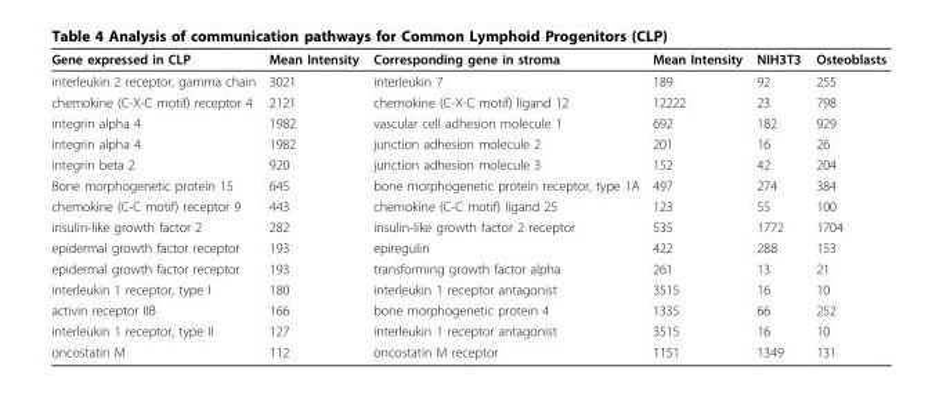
<table><thead><tr><td>Gene expressed in CLP</td><td>Mean Intensity</td><td>Corresponding gene in stroma</td><td>Mean Intensity</td><td>NIH3T3</td><td>Osteoblasts</td></tr></thead><tbody><tr><td>interleukin 2 receptor, gamma chain</td><td>3021</td><td>interleukin 7</td><td>189</td><td>92</td><td>255</td></tr><tr><td>chemokine (C-X-C motif) receptor 4</td><td>2121</td><td>chemokine (C-X-C motif) ligand 12</td><td>12222</td><td>23</td><td>798</td></tr><tr><td>integrin alpha 4</td><td>1982</td><td>vascular cell adhesion molecule 1</td><td>692</td><td>182</td><td>929</td></tr><tr><td>integrin alpha 4</td><td>1982</td><td>junction adhesion molecule 2</td><td>201</td><td>16</td><td>26</td></tr><tr><td>integrin beta 2</td><td>920</td><td>junction adhesion molecule 3</td><td>152</td><td>42</td><td>204</td></tr><tr><td>Bone morphogenetic protein 15</td><td>645</td><td>bone morphogenetic protein receptor, type 1A</td><td>497</td><td>274</td><td>384</td></tr><tr><td>chemokine (C-C motif) receptor 9</td><td>443</td><td>chemokine (C-C motif) ligand 25</td><td>123</td><td>55</td><td>100</td></tr><tr><td>insulin-like growth factor 2</td><td>282</td><td>insulin-like growth factor 2 receptor</td><td>535</td><td>1772</td><td>1704</td></tr><tr><td>epidermal growth factor receptor</td><td>193</td><td>epiregulin</td><td>422</td><td>288</td><td>153</td></tr><tr><td>epidermal growth factor receptor</td><td>193</td><td>transforming growth factor alpha</td><td>261</td><td>13</td><td>21</td></tr><tr><td>interleukin 1 receptor, type I</td><td>180</td><td>interleukin 1 receptor antagonist</td><td>3515</td><td>16</td><td>10</td></tr><tr><td>activin receptor IIB</td><td>166</td><td>bone morphogenetic protein 4</td><td>1335</td><td>66</td><td>252</td></tr><tr><td>interleukin 1 receptor, type II</td><td>127</td><td>interleukin 1 receptor antagonist</td><td>3515</td><td>16</td><td>10</td></tr><tr><td>oncostatin M</td><td>112</td><td>oncostatin M receptor</td><td>1151</td><td>1349</td><td>131</td></tr></tbody></table>